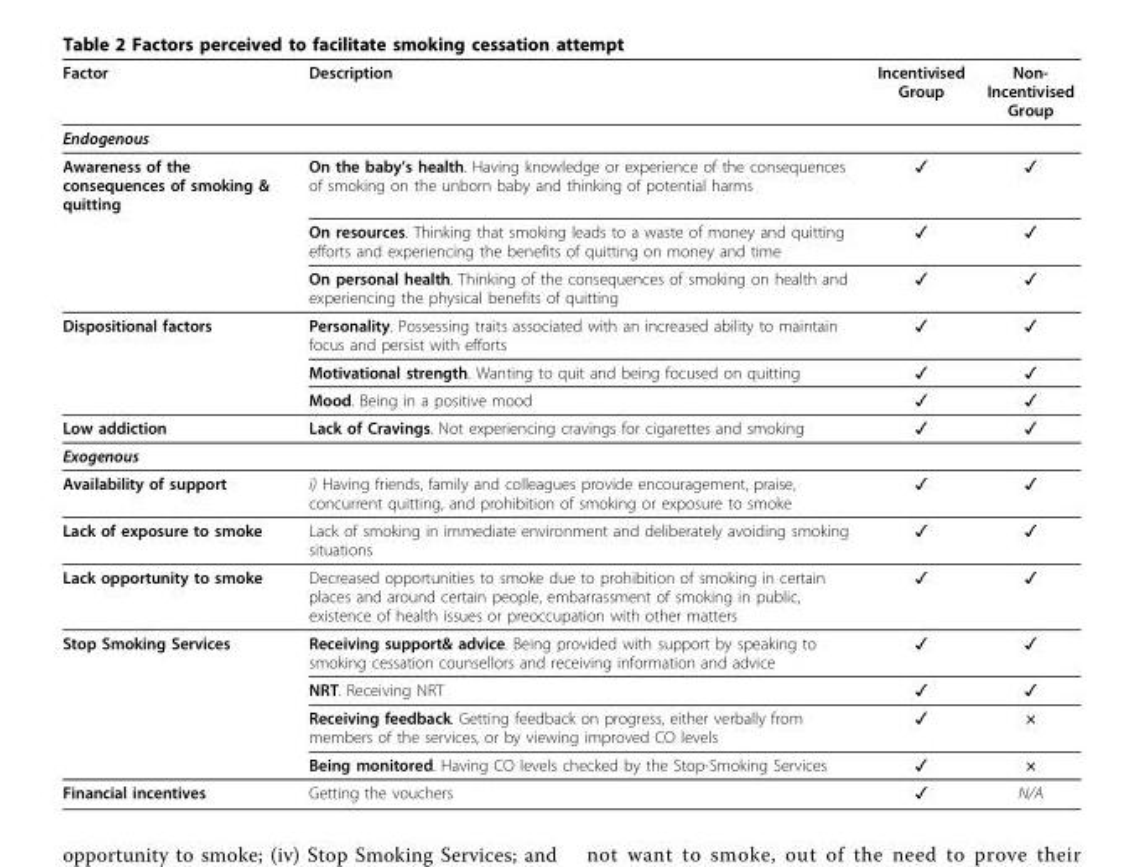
<table><thead><tr><td>Factor</td><td>Description</td><td>Incentivised Group</td><td>Non- Incentivised Group</td></tr></thead><tbody><tr><td colspan="4">Endogenous</td></tr><tr><td rowspan="3">Awareness of the consequences of smoking &amp; quitting</td><td>On the baby’s health. Having knowledge or experience of the consequences of smoking on the unborn baby and thinking of potential harms</td><td>✓</td><td>✓</td></tr><tr><td>On resources. Thinking that smoking leads to a waste of money and quitting efforts and experiencing the benefits of quitting on money and time</td><td>✓</td><td>✓</td></tr><tr><td>On personal health. Thinking of the consequences of smoking on health and experiencing the physical benefits of quitting</td><td>✓</td><td>✓</td></tr><tr><td rowspan="3">Dispositional factors</td><td>Personality. Possessing traits associated with an increased ability to maintain focus and persist with efforts</td><td>✓</td><td>✓</td></tr><tr><td>Motivational strength. Wanting to quit and being focused on quitting</td><td>✓</td><td>✓</td></tr><tr><td>Mood. Being in a positive mood</td><td>✓</td><td>✓</td></tr><tr><td>Low addiction</td><td>Lack of Cravings. Not experiencing cravings for cigarettes and smoking</td><td>✓</td><td>✓</td></tr><tr><td colspan="4">Exogenous</td></tr><tr><td>Availability of support</td><td>i) Having friends, family and colleagues provide encouragement, praise, concurrent quitting, and prohibition of smoking or exposure to smoke</td><td>✓</td><td>✓</td></tr><tr><td>Lack of exposure to smoke</td><td>Lack of smoking in immediate environment and deliberately avoiding smoking situations</td><td>✓</td><td>✓</td></tr><tr><td>Lack opportunity to smoke</td><td>Decreased opportunities to smoke due to prohibition of smoking in certain places and around certain people, embarrassment of smoking in public, existence of health issues or preoccupation with other matters</td><td>✓</td><td>✓</td></tr><tr><td rowspan="4">Stop Smoking Services</td><td>Receiving support&amp; advice. Being provided with support by speaking to smoking cessation counsellors and receiving information and advice</td><td>✓</td><td>✓</td></tr><tr><td>NRT. Receiving NRT</td><td>✓</td><td>✓</td></tr><tr><td>Receiving feedback. Getting feedback on progress, either verbally from members of the services, or by viewing improved CO levels</td><td>✓</td><td>×</td></tr><tr><td>Being monitored. Having CO levels checked by the Stop-Smoking Services</td><td>✓</td><td>×</td></tr><tr><td>Financial incentives</td><td>Getting the vouchers</td><td>✓</td><td>N/A</td></tr></tbody></table>